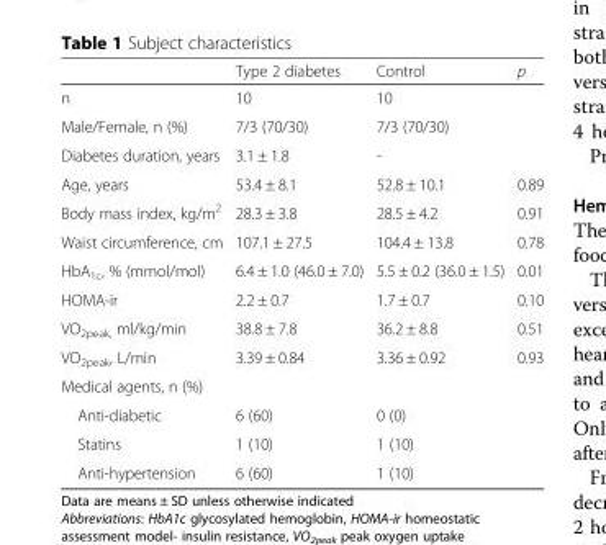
<table><thead><tr><td></td><td>Type 2 diabetes</td><td>Control</td><td>p</td></tr></thead><tbody><tr><td>n</td><td>10</td><td>10</td><td></td></tr><tr><td>Male/Female, n (%)</td><td>7/3 (70/30)</td><td>7/3 (70/30)</td><td></td></tr><tr><td>Diabetes duration, years</td><td>3.1 ± 1.8</td><td>-</td><td></td></tr><tr><td>Age, years</td><td>53.4 ± 8.1</td><td>52.8 ± 10.1</td><td>0.89</td></tr><tr><td>Body mass index, kg/m<sup>2</sup></td><td>28.3 ± 3.8</td><td>28.5 ± 4.2</td><td>0.91</td></tr><tr><td>Waist circumference, cm</td><td>107.1 ± 27.5</td><td>104.4 ± 13.8</td><td>0.78</td></tr><tr><td>HbA<sub>1c</sub>, % (mmol/mol)</td><td>6.4 ± 1.0 (46.0 ± 7.0)</td><td>5.5 ± 0.2 (36.0 ± 1.5)</td><td>0.01</td></tr><tr><td>HOMA-ir</td><td>2.2 ± 0.7</td><td>1.7 ± 0.7</td><td>0.10</td></tr><tr><td>VO<sub>2peak,</sub> ml/kg/min</td><td>38.8 ± 7.8</td><td>36.2 ± 8.8</td><td>0.51</td></tr><tr><td>VO<sub>2peak</sub>, L/min</td><td>3.39 ± 0.84</td><td>3.36 ± 0.92</td><td>0.93</td></tr><tr><td colspan="4">Medical agents, n (%)</td></tr><tr><td>Anti-diabetic</td><td>6 (60)</td><td>0 (0)</td><td></td></tr><tr><td>Statins</td><td>1 (10)</td><td>1 (10)</td><td></td></tr><tr><td>Anti-hypertension</td><td>6 (60)</td><td>1 (10)</td><td></td></tr></tbody></table>